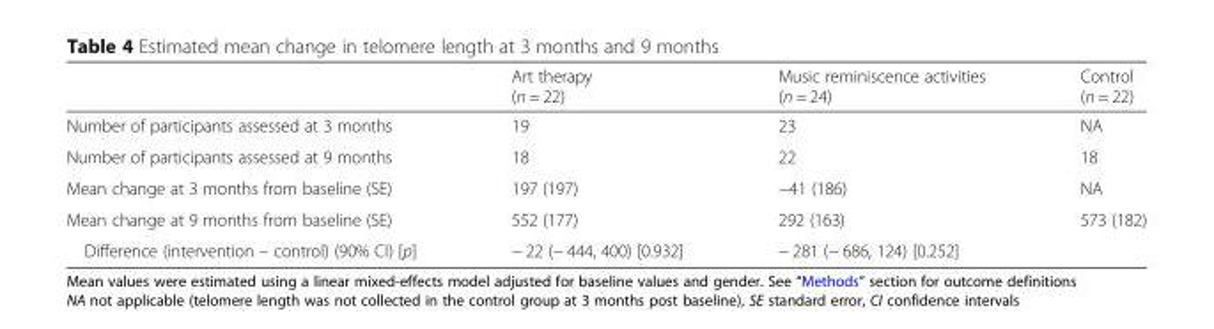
<table><thead><tr><td></td><td>Art therapy (n = 22)</td><td>Music reminiscence activities (n = 24)</td><td>Control (n = 22)</td></tr></thead><tbody><tr><td>Number of participants assessed at 3 months</td><td>19</td><td>23</td><td>NA</td></tr><tr><td>Number of participants assessed at 9 months</td><td>18</td><td>22</td><td>18</td></tr><tr><td>Mean change at 3 months from baseline (SE)</td><td>197 (197)</td><td>−41 (186)</td><td>NA</td></tr><tr><td>Mean change at 9 months from baseline (SE)</td><td>552 (177)</td><td>292 (163)</td><td>573 (182)</td></tr><tr><td>Difference (intervention – control) (90% CI) [p]</td><td>− 22 (− 444, 400) [0.932]</td><td>− 281 (− 686, 124) [0.252]</td><td></td></tr></tbody></table>